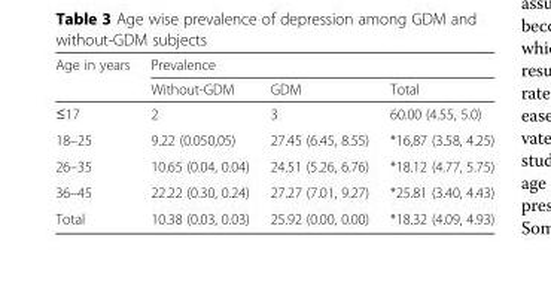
<table><thead><tr><td rowspan="2">Age in years</td><td colspan="3">Prevalence</td></tr><tr><td>Without-GDM</td><td>GDM</td><td>Total</td></tr></thead><tbody><tr><td>≤17</td><td>2</td><td>3</td><td>60.00 (4.55, 5.0)</td></tr><tr><td>18–25</td><td>9.22 (0.050,05)</td><td>27.45 (6.45, 8.55)</td><td>*16,87 (3.58, 4.25)</td></tr><tr><td>26–35</td><td>10.65 (0.04, 0.04)</td><td>24.51 (5.26, 6.76)</td><td>*18.12 (4.77, 5.75)</td></tr><tr><td>36–45</td><td>22.22 (0.30, 0.24)</td><td>27.27 (7.01, 9.27)</td><td>*25.81 (3.40, 4.43)</td></tr><tr><td>Total</td><td>10.38 (0.03, 0.03)</td><td>25.92 (0.00, 0.00)</td><td>*18.32 (4.09, 4.93)</td></tr></tbody></table>